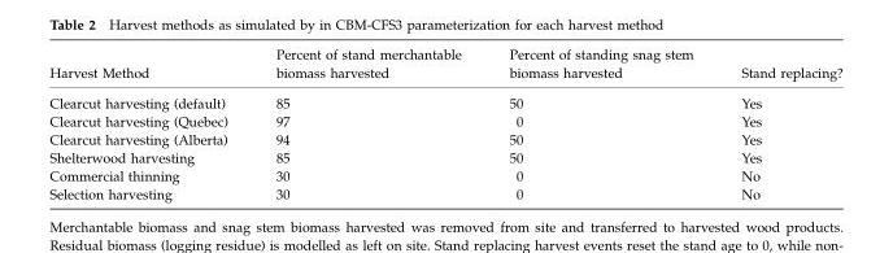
<table><thead><tr><td>Harvest Method</td><td>Percent of stand merchantable biomass harvested</td><td>Percent of standing snag stem biomass harvested</td><td>Stand replacing?</td></tr></thead><tbody><tr><td>Clearcut harvesting (default)</td><td>85</td><td>50</td><td>Yes</td></tr><tr><td>Clearcut harvesting (Quebec)</td><td>97</td><td>0</td><td>Yes</td></tr><tr><td>Clearcut harvesting (Alberta)</td><td>94</td><td>50</td><td>Yes</td></tr><tr><td>Shelterwood harvesting</td><td>85</td><td>50</td><td>Yes</td></tr><tr><td>Commercial thinning</td><td>30</td><td>0</td><td>No</td></tr><tr><td>Selection harvesting</td><td>30</td><td>0</td><td>No</td></tr></tbody></table>